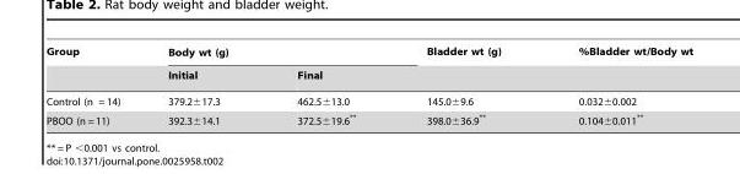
<table><thead><tr><td rowspan="2">Group</td><td colspan="2">Body wt (g)</td><td rowspan="2">Bladder wt (g)</td><td rowspan="2">%Bladder wt/Body wt</td></tr><tr><td>Initial</td><td>Final</td></tr></thead><tbody><tr><td>Control (n = 14)</td><td>379.2±17.3</td><td>462.5±13.0</td><td>145.0±9.6</td><td>0.032±0.002</td></tr><tr><td>PBOO (n = 11)</td><td>392.3±14.1</td><td>372.5±19.6**</td><td>398.0±36.9**</td><td>0.104±0.011**</td></tr></tbody></table>